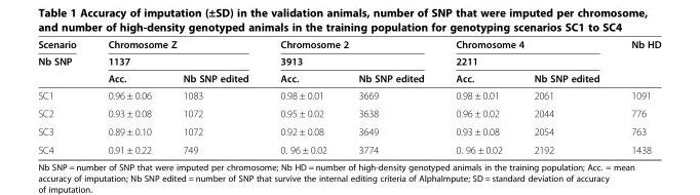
<table><thead><tr><td rowspan="3">Scenario Nb SNP</td><td rowspan="2" colspan="2">Chromosome Z 1137</td><td rowspan="2" colspan="2">Chromosome 2 3913</td><td rowspan="2" colspan="2">Chromosome 4 2211</td><td rowspan="3">Nb HD</td></tr><tr></tr><tr><td>Acc.</td><td>Nb SNP edited</td><td>Acc.</td><td>Nb SNP edited</td><td>Acc.</td><td>Nb SNP edited</td></tr></thead><tbody><tr><td>SC1</td><td>0.96 ± 0.06</td><td>1083</td><td>0.98 ± 0.01</td><td>3669</td><td>0.98 ± 0.01</td><td>2061</td><td>1091</td></tr><tr><td>SC2</td><td>0.93 ± 0.08</td><td>1072</td><td>0.95 ± 0.02</td><td>3638</td><td>0.96 ± 0.02</td><td>2044</td><td>776</td></tr><tr><td>SC3</td><td>0.89 ± 0.10</td><td>1072</td><td>0.92 ± 0.08</td><td>3649</td><td>0.93 ± 0.08</td><td>2054</td><td>763</td></tr><tr><td>SC4</td><td>0.91 ± 0.22</td><td>749</td><td>0. 96 ± 0.02</td><td>3774</td><td>0. 96 ± 0.02</td><td>2192</td><td>1438</td></tr></tbody></table>